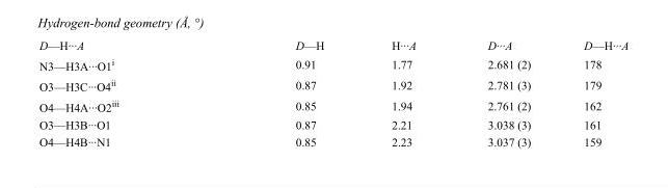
<table><tbody><tr><td>D—H···A</td><td>D—H</td><td>H···A</td><td>D···A</td><td>D—H···A</td></tr><tr><td>N3—H3A···O1<sup>i</sup></td><td>0.91</td><td>1.77</td><td>2.681 (2)</td><td>178</td></tr><tr><td>O3—H3C···O4<sup>ii</sup></td><td>0.87</td><td>1.92</td><td>2.781 (3)</td><td>179</td></tr><tr><td>O4—H4A···O2<sup>iii</sup></td><td>0.85</td><td>1.94</td><td>2.761 (2)</td><td>162</td></tr><tr><td>O3—H3B···O1</td><td>0.87</td><td>2.21</td><td>3.038 (3)</td><td>161</td></tr><tr><td>O4—H4B···N1</td><td>0.85</td><td>2.23</td><td>3.037 (3)</td><td>159</td></tr></tbody></table>